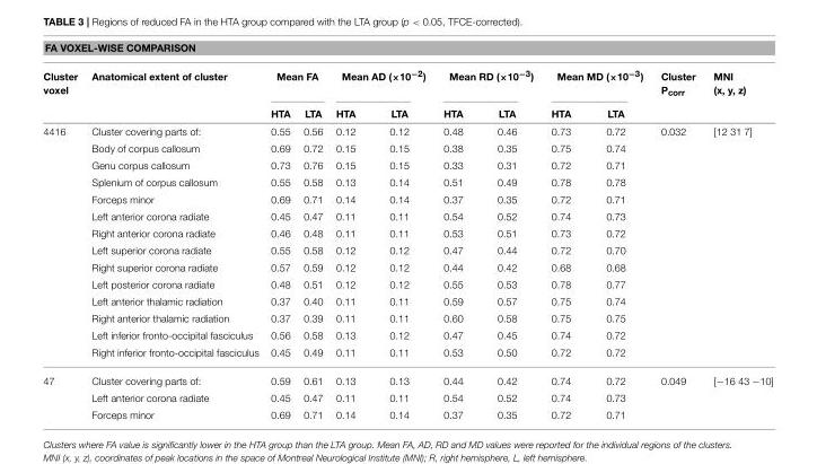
<table><thead><tr><td colspan="12">FA VOXEL-WISE COMPARISON</td></tr><tr><td rowspan="2">Cluster voxel</td><td rowspan="2">Anatomical extent of cluster</td><td colspan="2">Mean FA</td><td colspan="2">Mean AD (×10<sup>−2</sup>)</td><td colspan="2">Mean RD (×10<sup>−3</sup>)</td><td colspan="2">Mean MD (×10<sup>−3</sup>)</td><td rowspan="2">Cluster P<sub>corr</sub></td><td rowspan="2">MNI (x, y, z)</td></tr><tr><td>HTA</td><td>LTA</td><td>HTA</td><td>LTA</td><td>HTA</td><td>LTA</td><td>HTA</td><td>LTA</td></tr></thead><tbody><tr><td rowspan="14">4416</td><td>Cluster covering parts of:</td><td>0.55</td><td>0.56</td><td>0.12</td><td>0.12</td><td>0.48</td><td>0.46</td><td>0.73</td><td>0.72</td><td>0.032</td><td>[12 31 7]</td></tr><tr><td>Body of corpus callosum</td><td>0.69</td><td>0.72</td><td>0.15</td><td>0.15</td><td>0.38</td><td>0.35</td><td>0.75</td><td>0.74</td><td></td><td></td></tr><tr><td>Genu corpus callosum</td><td>0.73</td><td>0.76</td><td>0.15</td><td>0.15</td><td>0.33</td><td>0.31</td><td>0.72</td><td>0.71</td><td></td><td></td></tr><tr><td>Splenium of corpus callosum</td><td>0.55</td><td>0.58</td><td>0.13</td><td>0.14</td><td>0.51</td><td>0.49</td><td>0.78</td><td>0.78</td><td></td><td></td></tr><tr><td>Forceps minor</td><td>0.69</td><td>0.71</td><td>0.14</td><td>0.14</td><td>0.37</td><td>0.35</td><td>0.72</td><td>0.71</td><td></td><td></td></tr><tr><td>Left anterior corona radiate</td><td>0.45</td><td>0.47</td><td>0.11</td><td>0.11</td><td>0.54</td><td>0.52</td><td>0.74</td><td>0.73</td><td></td><td></td></tr><tr><td>Right anterior corona radiate</td><td>0.46</td><td>0.48</td><td>0.11</td><td>0.11</td><td>0.53</td><td>0.51</td><td>0.73</td><td>0.72</td><td></td><td></td></tr><tr><td>Left superior corona radiate</td><td>0.55</td><td>0.58</td><td>0.12</td><td>0.12</td><td>0.47</td><td>0.44</td><td>0.72</td><td>0.70</td><td></td><td></td></tr><tr><td>Right superior corona radiate</td><td>0.57</td><td>0.59</td><td>0.12</td><td>0.12</td><td>0.44</td><td>0.42</td><td>0.68</td><td>0.68</td><td></td><td></td></tr><tr><td>Left posterior corona radiate</td><td>0.48</td><td>0.51</td><td>0.12</td><td>0.12</td><td>0.55</td><td>0.53</td><td>0.78</td><td>0.77</td><td></td><td></td></tr><tr><td>Left anterior thalamic radiation</td><td>0.37</td><td>0.40</td><td>0.11</td><td>0.11</td><td>0.59</td><td>0.57</td><td>0.75</td><td>0.74</td><td></td><td></td></tr><tr><td>Right anterior thalamic radiation</td><td>0.37</td><td>0.39</td><td>0.11</td><td>0.11</td><td>0.60</td><td>0.58</td><td>0.75</td><td>0.75</td><td></td><td></td></tr><tr><td>Left inferior fronto-occipital fasciculus</td><td>0.56</td><td>0.58</td><td>0.13</td><td>0.12</td><td>0.47</td><td>0.45</td><td>0.74</td><td>0.72</td><td></td><td></td></tr><tr><td>Right inferior fronto-occipital fasciculus</td><td>0.45</td><td>0.49</td><td>0.11</td><td>0.11</td><td>0.53</td><td>0.50</td><td>0.72</td><td>0.72</td><td></td><td></td></tr><tr><td rowspan="3">47</td><td>Cluster covering parts of:</td><td>0.59</td><td>0.61</td><td>0.13</td><td>0.13</td><td>0.44</td><td>0.42</td><td>0.74</td><td>0.72</td><td>0.049</td><td>[−16 43 −10]</td></tr><tr><td>Left anterior corona radiate</td><td>0.45</td><td>0.47</td><td>0.11</td><td>0.11</td><td>0.54</td><td>0.52</td><td>0.74</td><td>0.73</td><td></td><td></td></tr><tr><td>Forceps minor</td><td>0.69</td><td>0.71</td><td>0.14</td><td>0.14</td><td>0.37</td><td>0.35</td><td>0.72</td><td>0.71</td><td></td><td></td></tr></tbody></table>